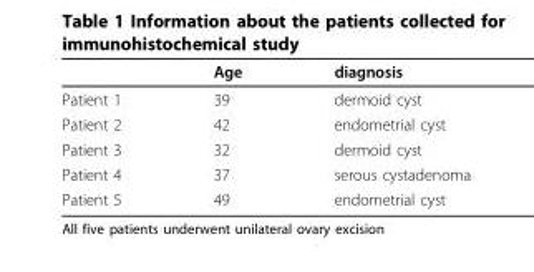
<table><thead><tr><td></td><td>Age</td><td>diagnosis</td></tr></thead><tbody><tr><td>Patient 1</td><td>39</td><td>dermoid cyst</td></tr><tr><td>Patient 2</td><td>42</td><td>endometrial cyst</td></tr><tr><td>Patient 3</td><td>32</td><td>dermoid cyst</td></tr><tr><td>Patient 4</td><td>37</td><td>serous cystadenoma</td></tr><tr><td>Patient 5</td><td>49</td><td>endometrial cyst</td></tr></tbody></table>